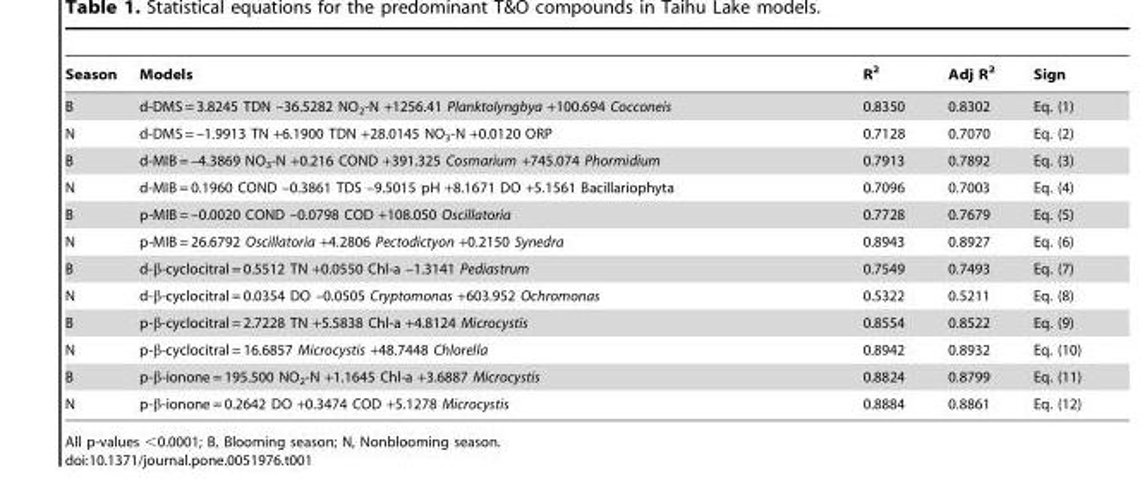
<table><thead><tr><td>Season</td><td>Models</td><td>R<sup>2</sup></td><td>Adj R<sup>2</sup></td><td>Sign</td></tr></thead><tbody><tr><td>B</td><td>d-DMS = 3.8245 TDN –36.5282 NO<sub>2</sub>-N +1256.41 Planktolyngbya +100.694 Cocconeis</td><td>0.8350</td><td>0.8302</td><td>Eq. (1)</td></tr><tr><td>N</td><td>d-DMS = –1.9913 TN +6.1900 TDN +28.0145 NO<sub>3</sub>-N +0.0120 ORP</td><td>0.7128</td><td>0.7070</td><td>Eq. (2)</td></tr><tr><td>B</td><td>d-MIB = –4.3869 NO<sub>3</sub>-N +0.216 COND +391.325 Cosmarium +745.074 Phormidium</td><td>0.7913</td><td>0.7892</td><td>Eq. (3)</td></tr><tr><td>N</td><td>d-MIB = 0.1960 COND –0.3861 TDS –9.5015 pH +8.1671 DO +5.1561 Bacillariophyta</td><td>0.7096</td><td>0.7003</td><td>Eq. (4)</td></tr><tr><td>B</td><td>p-MIB = –0.0020 COND –0.0798 COD +108.050 Oscillatoria</td><td>0.7728</td><td>0.7679</td><td>Eq. (5)</td></tr><tr><td>N</td><td>p-MIB = 26.6792 Oscillatoria +4.2806 Pectodictyon +0.2150 Synedra</td><td>0.8943</td><td>0.8927</td><td>Eq. (6)</td></tr><tr><td>B</td><td>d-β-cyclocitral = 0.5512 TN +0.0550 Chl-a –1.3141 Pediastrum</td><td>0.7549</td><td>0.7493</td><td>Eq. (7)</td></tr><tr><td>N</td><td>d-β-cyclocitral = 0.0354 DO –0.0505 Cryptomonas +603.952 Ochromonas</td><td>0.5322</td><td>0.5211</td><td>Eq. (8)</td></tr><tr><td>B</td><td>p-β-cyclocitral = 2.7228 TN +5.5838 Chl-a +4.8124 Microcystis</td><td>0.8554</td><td>0.8522</td><td>Eq. (9)</td></tr><tr><td>N</td><td>p-β-cyclocitral = 16.6857 Microcystis +48.7448 Chlorella</td><td>0.8942</td><td>0.8932</td><td>Eq. (10)</td></tr><tr><td>B</td><td>p-β-ionone = 195.500 NO<sub>2</sub>-N +1.1645 Chl-a +3.6887 Microcystis</td><td>0.8824</td><td>0.8799</td><td>Eq. (11)</td></tr><tr><td>N</td><td>p-β-ionone = 0.2642 DO +0.3474 COD +5.1278 Microcystis</td><td>0.8884</td><td>0.8861</td><td>Eq. (12)</td></tr></tbody></table>